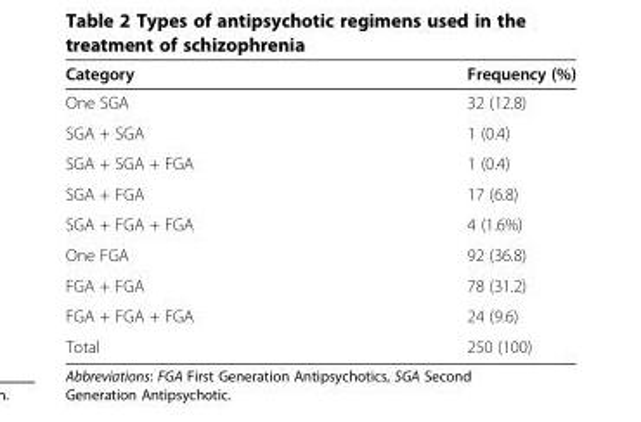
<table><thead><tr><td>Category</td><td>Frequency (%)</td></tr></thead><tbody><tr><td>One SGA</td><td>32 (12.8)</td></tr><tr><td>SGA + SGA</td><td>1 (0.4)</td></tr><tr><td>SGA + SGA + FGA</td><td>1 (0.4)</td></tr><tr><td>SGA + FGA</td><td>17 (6.8)</td></tr><tr><td>SGA + FGA + FGA</td><td>4 (1.6%)</td></tr><tr><td>One FGA</td><td>92 (36.8)</td></tr><tr><td>FGA + FGA</td><td>78 (31.2)</td></tr><tr><td>FGA + FGA + FGA</td><td>24 (9.6)</td></tr><tr><td>Total</td><td>250 (100)</td></tr></tbody></table>